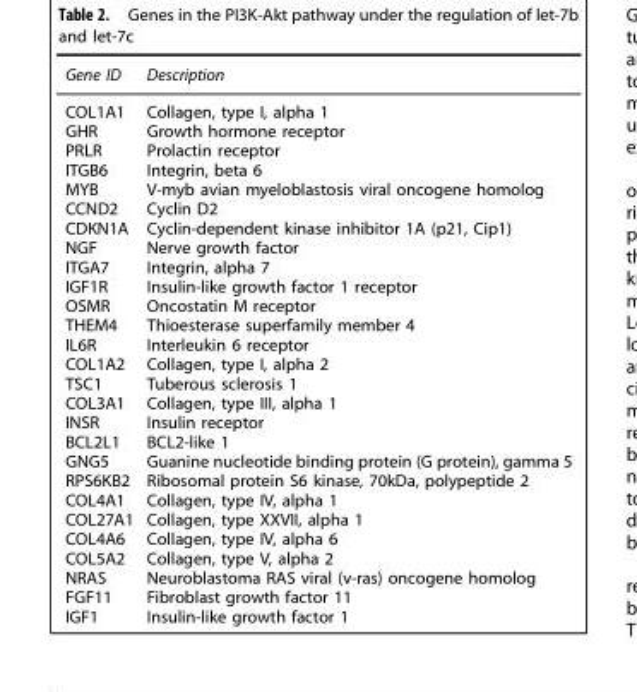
<table><thead><tr><td>Gene ID</td><td>Description</td></tr></thead><tbody><tr><td>COL1A1</td><td>Collagen, type I, alpha 1</td></tr><tr><td>GHR</td><td>Growth hormone receptor</td></tr><tr><td>PRLR</td><td>Prolactin receptor</td></tr><tr><td>ITGB6</td><td>Integrin, beta 6</td></tr><tr><td>MYB</td><td>V-myb avian myeloblastosis viral oncogene homolog</td></tr><tr><td>CCND2</td><td>Cyclin D2</td></tr><tr><td>CDKN1A</td><td>Cyclin-dependent kinase inhibitor 1A (p21, Cip1)</td></tr><tr><td>NGF</td><td>Nerve growth factor</td></tr><tr><td>ITGA7</td><td>Integrin, alpha 7</td></tr><tr><td>IGF1R</td><td>Insulin-like growth factor 1 receptor</td></tr><tr><td>OSMR</td><td>Oncostatin M receptor</td></tr><tr><td>THEM4</td><td>Thioesterase superfamily member 4</td></tr><tr><td>IL6R</td><td>Interleukin 6 receptor</td></tr><tr><td>COL1A2</td><td>Collagen, type I, alpha 2</td></tr><tr><td>TSC1</td><td>Tuberous sclerosis 1</td></tr><tr><td>COL3A1</td><td>Collagen, type III, alpha 1</td></tr><tr><td>INSR</td><td>Insulin receptor</td></tr><tr><td>BCL2L1</td><td>BCL2-like 1</td></tr><tr><td>GNG5</td><td>Guanine nucleotide binding protein (G protein), gamma 5</td></tr><tr><td>RPS6KB2</td><td>Ribosomal protein S6 kinase, 70kDa, polypeptide 2</td></tr><tr><td>COL4A1</td><td>Collagen, type IV, alpha 1</td></tr><tr><td>COL27A1</td><td>Collagen, type XXVII, alpha 1</td></tr><tr><td>COL4A6</td><td>Collagen, type IV, alpha 6</td></tr><tr><td>COL5A2</td><td>Collagen, type V, alpha 2</td></tr><tr><td>NRAS</td><td>Neuroblastoma RAS viral (v-ras) oncogene homolog</td></tr><tr><td>FGF11</td><td>Fibroblast growth factor 11</td></tr><tr><td>IGF1</td><td>Insulin-like growth factor 1</td></tr></tbody></table>